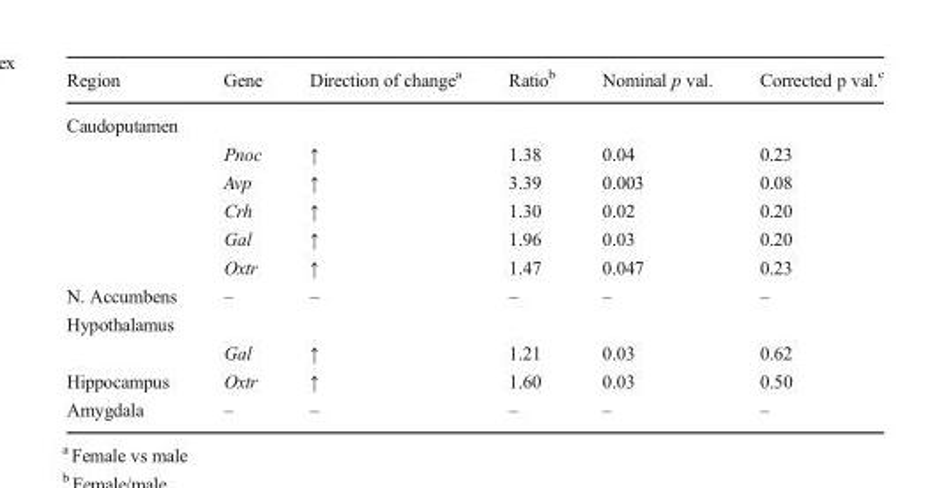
<table><thead><tr><td>Region</td><td>Gene</td><td>Direction of change<sup>a</sup></td><td>Ratio<sup>b</sup></td><td>Nominal p val.</td><td>Corrected p val.<sup>c</sup></td></tr></thead><tbody><tr><td colspan="6">Caudoputamen</td></tr><tr><td rowspan="5"></td><td>Pnoc</td><td>↑</td><td>1.38</td><td>0.04</td><td>0.23</td></tr><tr><td>Avp</td><td>↑</td><td>3.39</td><td>0.003</td><td>0.08</td></tr><tr><td>Crh</td><td>↑</td><td>1.30</td><td>0.02</td><td>0.20</td></tr><tr><td>Gal</td><td>↑</td><td>1.96</td><td>0.03</td><td>0.20</td></tr><tr><td>Oxtr</td><td>↑</td><td>1.47</td><td>0.047</td><td>0.23</td></tr><tr><td>N. Accumbens</td><td>–</td><td>–</td><td>–</td><td>–</td><td>–</td></tr><tr><td colspan="6">Hypothalamus</td></tr><tr><td></td><td>Gal</td><td>↑</td><td>1.21</td><td>0.03</td><td>0.62</td></tr><tr><td>Hippocampus</td><td>Oxtr</td><td>↑</td><td>1.60</td><td>0.03</td><td>0.50</td></tr><tr><td>Amygdala</td><td>–</td><td>–</td><td>–</td><td>–</td><td>–</td></tr></tbody></table>